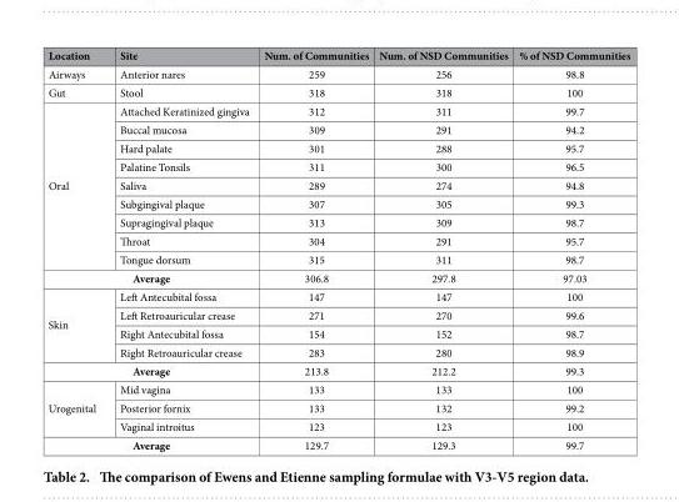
<table><thead><tr><td>Location</td><td>Site</td><td>Num. of Communities</td><td>Num. of NSD Communities</td><td>% of NSD Communities</td></tr></thead><tbody><tr><td>Airways</td><td>Anterior nares</td><td>259</td><td>256</td><td>98.8</td></tr><tr><td>Gut</td><td>Stool</td><td>318</td><td>318</td><td>100</td></tr><tr><td rowspan="9">Oral</td><td>Attached Keratinized gingiva</td><td>312</td><td>311</td><td>99.7</td></tr><tr><td>Buccal mucosa</td><td>309</td><td>291</td><td>94.2</td></tr><tr><td>Hard palate</td><td>301</td><td>288</td><td>95.7</td></tr><tr><td>Palatine Tonsils</td><td>311</td><td>300</td><td>96.5</td></tr><tr><td>Saliva</td><td>289</td><td>274</td><td>94.8</td></tr><tr><td>Subgingival plaque</td><td>307</td><td>305</td><td>99.3</td></tr><tr><td>Supragingival plaque</td><td>313</td><td>309</td><td>98.7</td></tr><tr><td>Throat</td><td>304</td><td>291</td><td>95.7</td></tr><tr><td>Tongue dorsum</td><td>315</td><td>311</td><td>98.7</td></tr><tr><td colspan="2">Average</td><td>306.8</td><td>297.8</td><td>97.03</td></tr><tr><td rowspan="4">Skin</td><td>Left Antecubital fossa</td><td>147</td><td>147</td><td>100</td></tr><tr><td>Left Retroauricular crease</td><td>271</td><td>270</td><td>99.6</td></tr><tr><td>Right Antecubital fossa</td><td>154</td><td>152</td><td>98.7</td></tr><tr><td>Right Retroauricular crease</td><td>283</td><td>280</td><td>98.9</td></tr><tr><td colspan="2">Average</td><td>213.8</td><td>212.2</td><td>99.3</td></tr><tr><td rowspan="3">Urogenital</td><td>Mid vagina</td><td>133</td><td>133</td><td>100</td></tr><tr><td>Posterior fornix</td><td>133</td><td>132</td><td>99.2</td></tr><tr><td>Vaginal introitus</td><td>123</td><td>123</td><td>100</td></tr><tr><td colspan="2">Average</td><td>129.7</td><td>129.3</td><td>99.7</td></tr></tbody></table>